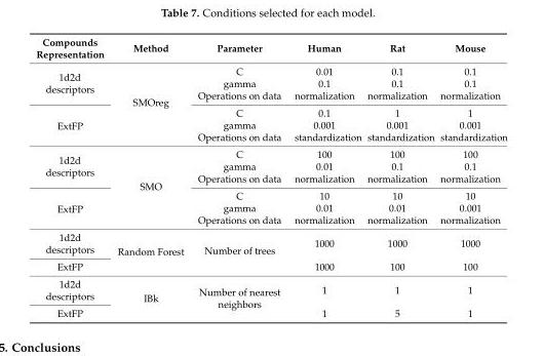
<table><thead><tr><td>Compounds Representation</td><td>Method</td><td>Parameter</td><td>Human</td><td>Rat</td><td>Mouse</td></tr></thead><tbody><tr><td rowspan="3">1d2d descriptors</td><td rowspan="6">SMOreg</td><td>C</td><td>0.01</td><td>0.1</td><td>0.1</td></tr><tr><td>gamma</td><td>0.1</td><td>0.1</td><td>0.1</td></tr><tr><td>Operations on data</td><td>normalization</td><td>normalization</td><td>normalization</td></tr><tr><td rowspan="3">ExtFP</td><td>C</td><td>0.1</td><td>1</td><td>1</td></tr><tr><td>gamma</td><td>0.001</td><td>0.001</td><td>0.001</td></tr><tr><td>Operations on data</td><td>standardization</td><td>standardization</td><td>standardization</td></tr><tr><td rowspan="3">1d2d descriptors</td><td rowspan="6">SMO</td><td>C</td><td>100</td><td>100</td><td>100</td></tr><tr><td>gamma</td><td>0.01</td><td>0.1</td><td>0.1</td></tr><tr><td>Operations on data</td><td>normalization</td><td>normalization</td><td>normalization</td></tr><tr><td rowspan="3">ExtFP</td><td>C</td><td>10</td><td>10</td><td>10</td></tr><tr><td>gamma</td><td>0.01</td><td>0.01</td><td>0.001</td></tr><tr><td>Operations on data</td><td>normalization</td><td>normalization</td><td>normalization</td></tr><tr><td>1d2d descriptors</td><td rowspan="2">Random Forest</td><td rowspan="2">Number of trees</td><td>1000</td><td>1000</td><td>1000</td></tr><tr><td>ExtFP</td><td>1000</td><td>100</td><td>100</td></tr><tr><td>1d2d descriptors</td><td rowspan="2">IBk</td><td rowspan="2">Number of nearest neighbors</td><td>1</td><td>1</td><td>1</td></tr><tr><td>ExtFP</td><td>1</td><td>5</td><td>1</td></tr></tbody></table>